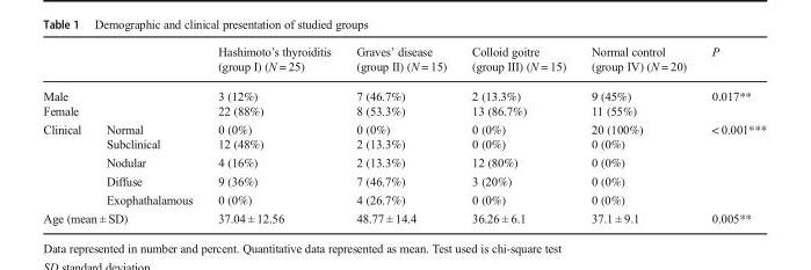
<table><thead><tr><td></td><td></td><td>Hashimoto’s thyroiditis (group I) (N = 25)</td><td>Graves’ disease (group II) (N = 15)</td><td>Colloid goitre (group III) (N = 15)</td><td>Normal control (group IV) (N = 20)</td><td>P</td></tr></thead><tbody><tr><td colspan="2">Male</td><td>3 (12%)</td><td>7 (46.7%)</td><td>2 (13.3%)</td><td>9 (45%)</td><td rowspan="2">0.017**</td></tr><tr><td colspan="2">Female</td><td>22 (88%)</td><td>8 (53.3%)</td><td>13 (86.7%)</td><td>11 (55%)</td></tr><tr><td rowspan="5">Clinical</td><td>Normal</td><td>0 (0%)</td><td>0 (0%)</td><td>0 (0%)</td><td>20 (100%)</td><td rowspan="5">&lt; 0.001***</td></tr><tr><td>Subclinical</td><td>12 (48%)</td><td>2 (13.3%)</td><td>0 (0%)</td><td>0 (0%)</td></tr><tr><td>Nodular</td><td>4 (16%)</td><td>2 (13.3%)</td><td>12 (80%)</td><td>0 (0%)</td></tr><tr><td>Diffuse</td><td>9 (36%)</td><td>7 (46.7%)</td><td>3 (20%)</td><td>0 (0%)</td></tr><tr><td>Exophathalamous</td><td>0 (0%)</td><td>4 (26.7%)</td><td>0 (0%)</td><td>0 (0%)</td></tr><tr><td colspan="2">Age (mean ± SD)</td><td>37.04 ± 12.56</td><td>48.77 ± 14.4</td><td>36.26 ± 6.1</td><td>37.1 ± 9.1</td><td>0.005**</td></tr></tbody></table>